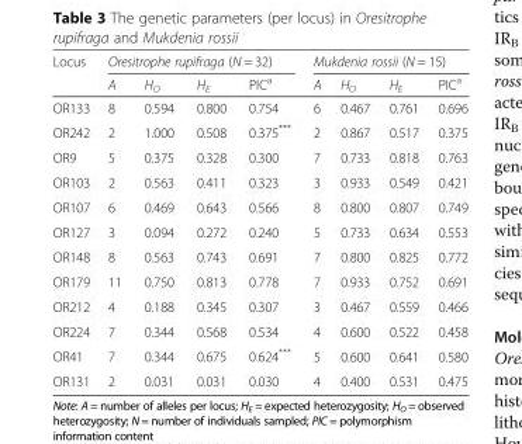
<table><thead><tr><td rowspan="2">Locus</td><td colspan="4">Oresitrophe rupifraga (N = 32)</td><td colspan="4">Mukdenia rossii (N = 15)</td></tr><tr><td>A</td><td>H<sub>O</sub></td><td>H<sub>E</sub></td><td>PIC<sup>a</sup></td><td>A</td><td>H<sub>O</sub></td><td>H<sub>E</sub></td><td>PIC<sup>a</sup></td></tr></thead><tbody><tr><td>OR133</td><td>8</td><td>0.594</td><td>0.800</td><td>0.754</td><td>6</td><td>0.467</td><td>0.761</td><td>0.696</td></tr><tr><td>OR242</td><td>2</td><td>1.000</td><td>0.508</td><td>0.375***</td><td>2</td><td>0.867</td><td>0.517</td><td>0.375</td></tr><tr><td>OR9</td><td>5</td><td>0.375</td><td>0.328</td><td>0.300</td><td>7</td><td>0.733</td><td>0.818</td><td>0.763</td></tr><tr><td>OR103</td><td>2</td><td>0.563</td><td>0.411</td><td>0.323</td><td>3</td><td>0.933</td><td>0.549</td><td>0.421</td></tr><tr><td>OR107</td><td>6</td><td>0.469</td><td>0.643</td><td>0.566</td><td>8</td><td>0.800</td><td>0.807</td><td>0.749</td></tr><tr><td>OR127</td><td>3</td><td>0.094</td><td>0.272</td><td>0.240</td><td>5</td><td>0.733</td><td>0.634</td><td>0.553</td></tr><tr><td>OR148</td><td>8</td><td>0.563</td><td>0.743</td><td>0.691</td><td>7</td><td>0.800</td><td>0.825</td><td>0.772</td></tr><tr><td>OR179</td><td>11</td><td>0.750</td><td>0.813</td><td>0.778</td><td>7</td><td>0.933</td><td>0.752</td><td>0.691</td></tr><tr><td>OR212</td><td>4</td><td>0.188</td><td>0.345</td><td>0.307</td><td>3</td><td>0.467</td><td>0.559</td><td>0.466</td></tr><tr><td>OR224</td><td>7</td><td>0.344</td><td>0.568</td><td>0.534</td><td>4</td><td>0.600</td><td>0.522</td><td>0.458</td></tr><tr><td>OR41</td><td>7</td><td>0.344</td><td>0.675</td><td>0.624***</td><td>5</td><td>0.600</td><td>0.641</td><td>0.580</td></tr><tr><td>OR131</td><td>2</td><td>0.031</td><td>0.031</td><td>0.030</td><td>4</td><td>0.400</td><td>0.531</td><td>0.475</td></tr></tbody></table>